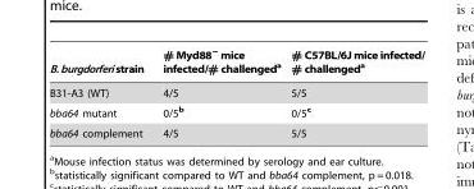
<table><thead><tr><td>B. burgdorferi strain</td><td># Myd88<sup>−</sup> mice infected/# challenged<sup>a</sup></td><td># C57BL/6J mice infected/ # challenged<sup>a</sup></td></tr></thead><tbody><tr><td>B31-A3 (WT)</td><td>4/5</td><td>5/5</td></tr><tr><td>bba64 mutant</td><td>0/5<sup>b</sup></td><td>0/5<sup>c</sup></td></tr><tr><td>bba64 complement</td><td>4/5</td><td>5/5</td></tr></tbody></table>